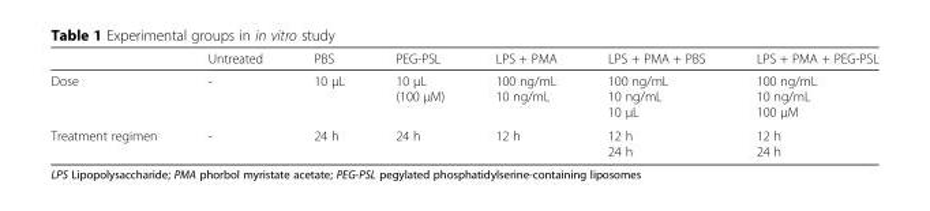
<table><thead><tr><td></td><td>Untreated</td><td>PBS</td><td>PEG-PSL</td><td>LPS + PMA</td><td>LPS + PMA + PBS</td><td>LPS + PMA + PEG-PSL</td></tr></thead><tbody><tr><td>Dose</td><td>-</td><td>10 μL</td><td>10 μL (100 μM)</td><td>100 ng/mL 10 ng/mL</td><td>100 ng/mL 10 ng/mL 10 μL</td><td>100 ng/mL 10 ng/mL 100 μM</td></tr><tr><td>Treatment regimen</td><td>-</td><td>24 h</td><td>24 h</td><td>12 h</td><td>12 h 24 h</td><td>12 h 24 h</td></tr></tbody></table>